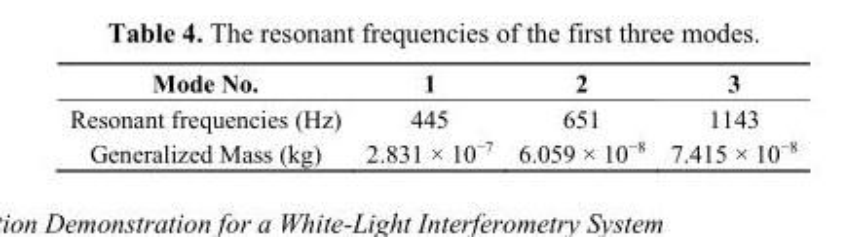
<table><thead><tr><td>Mode No.</td><td>1</td><td>2</td><td>3</td></tr></thead><tbody><tr><td>Resonant frequencies (Hz)</td><td>445</td><td>651</td><td>1143</td></tr><tr><td>Generalized Mass (kg)</td><td>2.831 × 10<sup>−7</sup></td><td>6.059 × 10<sup>−8</sup></td><td>7.415 × 10<sup>−8</sup></td></tr></tbody></table>